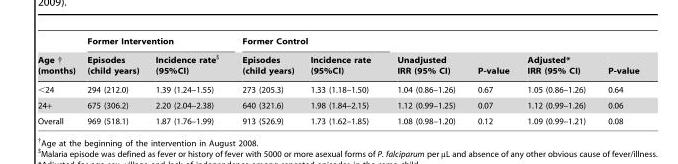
<table><thead><tr><td rowspan="2">Age † (months)</td><td colspan="2">Former Intervention</td><td colspan="2">Former Control</td><td rowspan="2">Unadjusted IRR (95% CI)</td><td rowspan="2">P-value</td><td rowspan="2">Adjusted* IRR (95% CI)</td><td rowspan="2">P-value</td></tr><tr><td>Episodes (child years)</td><td>Incidence rate$ (95%CI)</td><td>Episodes (child years)</td><td>Incidence rate (95%CI)</td></tr></thead><tbody><tr><td>&lt;24</td><td>294 (212.0)</td><td>1.39 (1.24–1.55)</td><td>273 (205.3)</td><td>1.33 (1.18–1.50)</td><td>1.04 (0.86–1.26)</td><td>0.67</td><td>1.05 (0.86–1.26)</td><td>0.64</td></tr><tr><td>24+</td><td>675 (306.2)</td><td>2.20 (2.04–2.38)</td><td>640 (321.6)</td><td>1.98 (1.84–2.15)</td><td>1.12 (0.99–1.25)</td><td>0.07</td><td>1.12 (0.99–1.26)</td><td>0.06</td></tr><tr><td>Overall</td><td>969 (518.1)</td><td>1.87 (1.76–1.99)</td><td>913 (526.9)</td><td>1.73 (1.62–1.85)</td><td>1.08 (0.98–1.20)</td><td>0.12</td><td>1.09 (0.99–1.21)</td><td>0.08</td></tr></tbody></table>